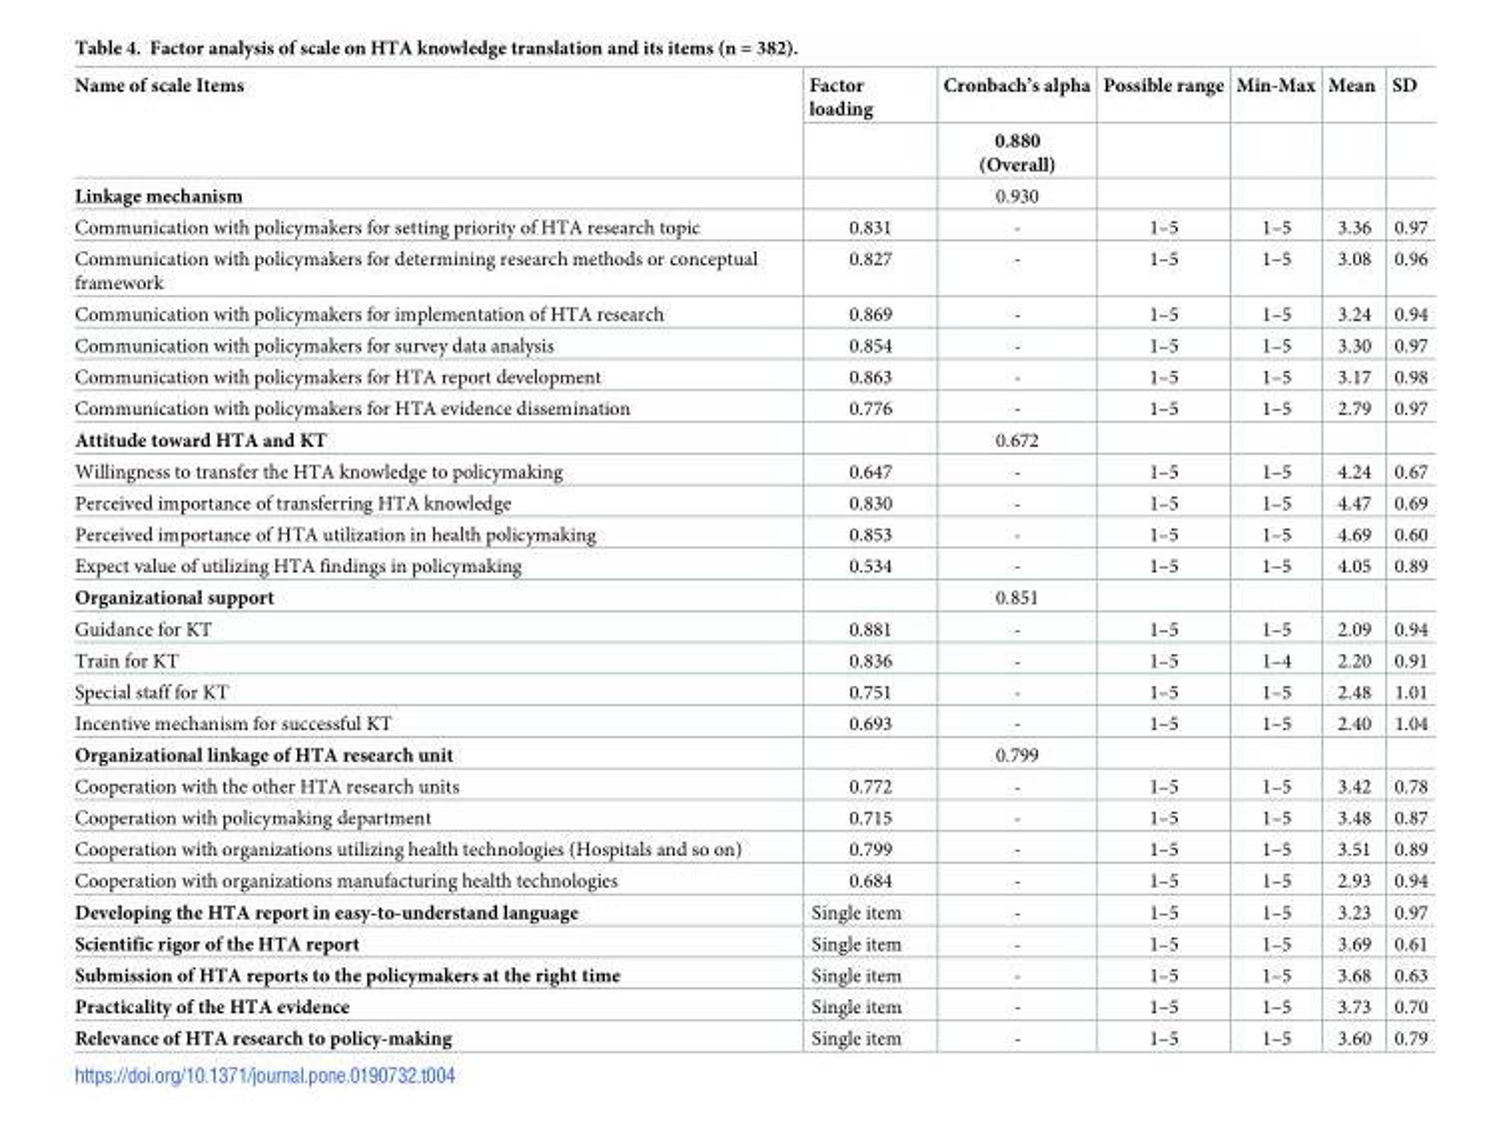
<table><thead><tr><td rowspan="2">Name of scale Items</td><td rowspan="2">Factor loading</td><td rowspan="2">Cronbach’s alpha 0.880 (Overall)</td><td rowspan="2">Possible range</td><td rowspan="2">Min-Max</td><td rowspan="2">Mean</td><td rowspan="2">SD</td></tr><tr></tr></thead><tbody><tr><td>Linkage mechanism</td><td></td><td>0.930</td><td></td><td></td><td></td><td></td></tr><tr><td>Communication with policymakers for setting priority of HTA research topic</td><td>0.831</td><td>-</td><td>1–5</td><td>1–5</td><td>3.36</td><td>0.97</td></tr><tr><td>Communication with policymakers for determining research methods or conceptual framework</td><td>0.827</td><td>-</td><td>1–5</td><td>1–5</td><td>3.08</td><td>0.96</td></tr><tr><td>Communication with policymakers for implementation of HTA research</td><td>0.869</td><td>-</td><td>1–5</td><td>1–5</td><td>3.24</td><td>0.94</td></tr><tr><td>Communication with policymakers for survey data analysis</td><td>0.854</td><td>-</td><td>1–5</td><td>1–5</td><td>3.30</td><td>0.97</td></tr><tr><td>Communication with policymakers for HTA report development</td><td>0.863</td><td>-</td><td>1–5</td><td>1–5</td><td>3.17</td><td>0.98</td></tr><tr><td>Communication with policymakers for HTA evidence dissemination</td><td>0.776</td><td>-</td><td>1–5</td><td>1–5</td><td>2.79</td><td>0.97</td></tr><tr><td>Attitude toward HTA and KT</td><td></td><td>0.672</td><td></td><td></td><td></td><td></td></tr><tr><td>Willingness to transfer the HTA knowledge to policymaking</td><td>0.647</td><td>-</td><td>1–5</td><td>1–5</td><td>4.24</td><td>0.67</td></tr><tr><td>Perceived importance of transferring HTA knowledge</td><td>0.830</td><td>-</td><td>1–5</td><td>1–5</td><td>4.47</td><td>0.69</td></tr><tr><td>Perceived importance of HTA utilization in health policymaking</td><td>0.853</td><td>-</td><td>1–5</td><td>1–5</td><td>4.69</td><td>0.60</td></tr><tr><td>Expect value of utilizing HTA findings in policymaking</td><td>0.534</td><td>-</td><td>1–5</td><td>1–5</td><td>4.05</td><td>0.89</td></tr><tr><td>Organizational support</td><td></td><td>0.851</td><td></td><td></td><td></td><td></td></tr><tr><td>Guidance for KT</td><td>0.881</td><td>-</td><td>1–5</td><td>1–5</td><td>2.09</td><td>0.94</td></tr><tr><td>Train for KT</td><td>0.836</td><td>-</td><td>1–5</td><td>1–4</td><td>2.20</td><td>0.91</td></tr><tr><td>Special staff for KT</td><td>0.751</td><td>-</td><td>1–5</td><td>1–5</td><td>2.48</td><td>1.01</td></tr><tr><td>Incentive mechanism for successful KT</td><td>0.693</td><td>-</td><td>1–5</td><td>1–5</td><td>2.40</td><td>1.04</td></tr><tr><td>Organizational linkage of HTA research unit</td><td></td><td>0.799</td><td></td><td></td><td></td><td></td></tr><tr><td>Cooperation with the other HTA research units</td><td>0.772</td><td>-</td><td>1–5</td><td>1–5</td><td>3.42</td><td>0.78</td></tr><tr><td>Cooperation with policymaking department</td><td>0.715</td><td>-</td><td>1–5</td><td>1–5</td><td>3.48</td><td>0.87</td></tr><tr><td>Cooperation with organizations utilizing health technologies (Hospitals and so on)</td><td>0.799</td><td>-</td><td>1–5</td><td>1–5</td><td>3.51</td><td>0.89</td></tr><tr><td>Cooperation with organizations manufacturing health technologies</td><td>0.684</td><td>-</td><td>1–5</td><td>1–5</td><td>2.93</td><td>0.94</td></tr><tr><td>Developing the HTA report in easy-to-understand language</td><td>Single item</td><td>-</td><td>1–5</td><td>1–5</td><td>3.23</td><td>0.97</td></tr><tr><td>Scientific rigor of the HTA report</td><td>Single item</td><td>-</td><td>1–5</td><td>1–5</td><td>3.69</td><td>0.61</td></tr><tr><td>Submission of HTA reports to the policymakers at the right time</td><td>Single item</td><td>-</td><td>1–5</td><td>1–5</td><td>3.68</td><td>0.63</td></tr><tr><td>Practicality of the HTA evidence</td><td>Single item</td><td>-</td><td>1–5</td><td>1–5</td><td>3.73</td><td>0.70</td></tr><tr><td>Relevance of HTA research to policy-making</td><td>Single item</td><td>-</td><td>1–5</td><td>1–5</td><td>3.60</td><td>0.79</td></tr></tbody></table>